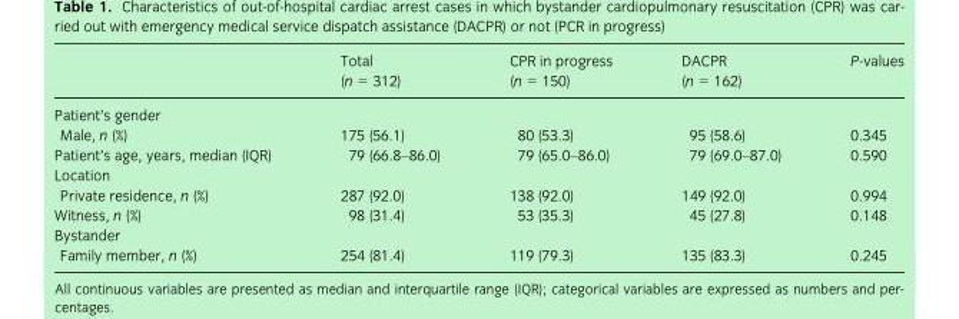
<table><thead><tr><td></td><td>Total (n = 312)</td><td>CPR in progress (n = 150)</td><td>DACPR (n = 162)</td><td>P-values</td></tr></thead><tbody><tr><td colspan="5">Patient’s gender</td></tr><tr><td>Male, n (%)</td><td>175 (56.1)</td><td>80 (53.3)</td><td>95 (58.6)</td><td>0.345</td></tr><tr><td>Patient’s age, years, median (IQR)</td><td>79 (66.8–86.0)</td><td>79 (65.0–86.0)</td><td>79 (69.0–87.0)</td><td>0.590</td></tr><tr><td colspan="5">Location</td></tr><tr><td>Private residence, n (%)</td><td>287 (92.0)</td><td>138 (92.0)</td><td>149 (92.0)</td><td>0.994</td></tr><tr><td>Witness, n (%)</td><td>98 (31.4)</td><td>53 (35.3)</td><td>45 (27.8)</td><td>0.148</td></tr><tr><td colspan="5">Bystander</td></tr><tr><td>Family member, n (%)</td><td>254 (81.4)</td><td>119 (79.3)</td><td>135 (83.3)</td><td>0.245</td></tr></tbody></table>